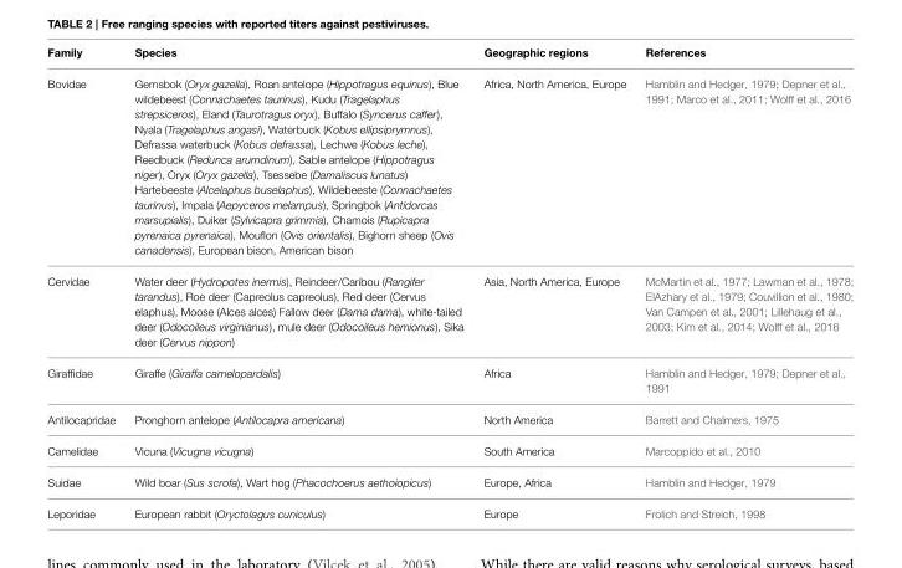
<table><thead><tr><td>Family</td><td>Species</td><td>Geographic regions</td><td>References</td></tr></thead><tbody><tr><td>Bovidae</td><td>Gemsbok (Oryx gazella), Roan antelope (Hippotragus equinus), Blue wildebeest (Connachaetes taurinus), Kudu (Tragelaphus strepsiceros), Eland (Taurotragus oryx), Buffalo (Syncerus caffer), Nyala (Tragelaphus angasi), Waterbuck (Kobus ellipsiprymnus), Defrassa waterbuck (Kobus defrassa), Lechwe (Kobus leche), Reedbuck (Redunca arumdinum), Sable antelope (Hippotragus niger), Oryx (Oryx gazella), Tsessebe (Damaliscus lunatus) Hartebeeste (Alcelaphus buselaphus), Wildebeeste (Connachaetes taurinus), Impala (Aepyceros melampus), Springbok (Antidorcas marsupialis), Duiker (Sylvicapra grimmia), Chamois (Rupicapra pyrenaica pyrenaica), Mouflon (Ovis orientalis), Bighorn sheep (Ovis canadensis), European bison, American bison</td><td>Africa, North America, Europe</td><td>Hamblin and Hedger, 1979; Depner et al., 1991; Marco et al., 2011; Wolff et al., 2016</td></tr><tr><td>Cervidae</td><td>Water deer (Hydropotes inermis), Reindeer/Caribou (Rangifer tarandus), Roe deer (Capreolus capreolus), Red deer (Cervus elaphus), Moose (Alces alces) Fallow deer (Dama dama), white-tailed deer (Odocoileus virginianus), mule deer (Odocoileus hemionus), Sika deer (Cervus nippon)</td><td>Asia, North America, Europe</td><td>McMartin et al., 1977; Lawman et al., 1978; ElAzhary et al., 1979; Couvillion et al., 1980; Van Campen et al., 2001; Lillehaug et al., 2003; Kim et al., 2014; Wolff et al., 2016</td></tr><tr><td>Giraffidae</td><td>Giraffe (Giraffa camelopardalis)</td><td>Africa</td><td>Hamblin and Hedger, 1979; Depner et al., 1991</td></tr><tr><td>Antilocapridae</td><td>Pronghorn antelope (Antilocapra americana)</td><td>North America</td><td>Barrett and Chalmers, 1975</td></tr><tr><td>Camelidae</td><td>Vicuna (Vicugna vicugna)</td><td>South America</td><td>Marcoppido et al., 2010</td></tr><tr><td>Suidae</td><td>Wild boar (Sus scrofa), Wart hog (Phacochoerus aethoiopicus)</td><td>Europe, Africa</td><td>Hamblin and Hedger, 1979</td></tr><tr><td>Leporidae</td><td>European rabbit (Oryctolagus cuniculus)</td><td>Europe</td><td>Frolich and Streich, 1998</td></tr></tbody></table>